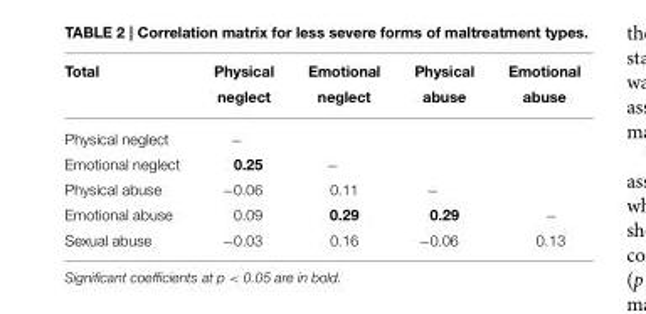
<table><thead><tr><td>Total</td><td>Physical neglect</td><td>Emotional neglect</td><td>Physical abuse</td><td>Emotional abuse</td></tr></thead><tbody><tr><td>Physical neglect</td><td>−</td><td></td><td></td><td></td></tr><tr><td>Emotional neglect</td><td>0.25</td><td>−</td><td></td><td></td></tr><tr><td>Physical abuse</td><td>−0.06</td><td>0.11</td><td>−</td><td></td></tr><tr><td>Emotional abuse</td><td>0.09</td><td>0.29</td><td>0.29</td><td>−</td></tr><tr><td>Sexual abuse</td><td>−0.03</td><td>0.16</td><td>−0.06</td><td>0.13</td></tr></tbody></table>